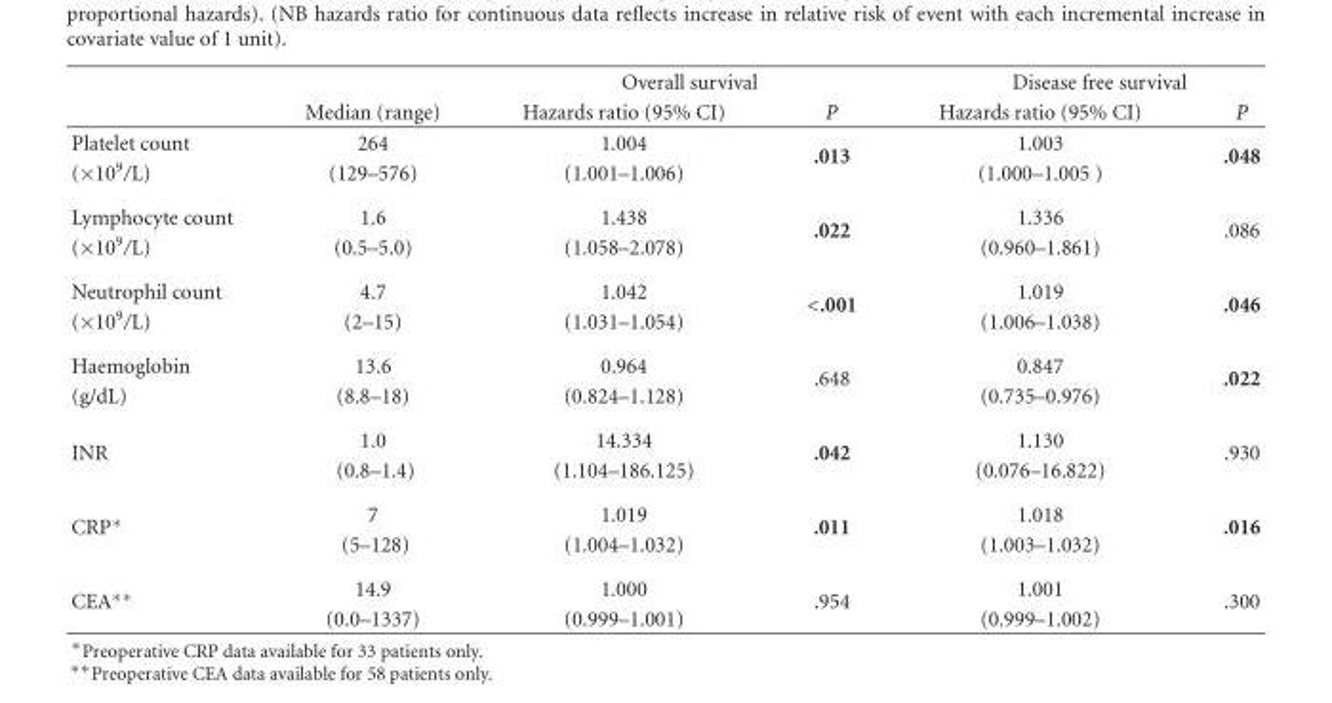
<table><thead><tr><td rowspan="2"></td><td rowspan="2">Median (range)</td><td colspan="2">Overall survival</td><td colspan="2">Disease free survival</td></tr><tr><td>Hazards ratio (95% CI)</td><td>P</td><td>Hazards ratio (95% CI)</td><td>P</td></tr></thead><tbody><tr><td>Platelet count</td><td>264</td><td>1.004</td><td rowspan="2">.013</td><td>1.003</td><td rowspan="2">.048</td></tr><tr><td>(×10<sup>9</sup>/L)</td><td>(129–576)</td><td>(1.001–1.006)</td><td>(1.000–1.005 )</td></tr><tr><td>Lymphocyte count</td><td>1.6</td><td>1.438</td><td rowspan="2">.022</td><td>1.336</td><td rowspan="2">.086</td></tr><tr><td>(×10<sup>9</sup>/L)</td><td>(0.5–5.0)</td><td>(1.058–2.078)</td><td>(0.960–1.861)</td></tr><tr><td>Neutrophil count</td><td>4.7</td><td>1.042</td><td rowspan="2">&lt;.001</td><td>1.019</td><td rowspan="2">.046</td></tr><tr><td>(×10<sup>9</sup>/L)</td><td>(2–15)</td><td>(1.031–1.054)</td><td>(1.006–1.038)</td></tr><tr><td>Haemoglobin</td><td>13.6</td><td>0.964</td><td rowspan="2">.648</td><td>0.847</td><td rowspan="2">.022</td></tr><tr><td>(g/dL)</td><td>(8.8–18)</td><td>(0.824–1.128)</td><td>(0.735–0.976)</td></tr><tr><td rowspan="2">INR</td><td>1.0</td><td>14.334</td><td rowspan="2">.042</td><td>1.130</td><td rowspan="2">.930</td></tr><tr><td>(0.8–1.4)</td><td>(1.104–186.125)</td><td>(0.076–16.822)</td></tr><tr><td rowspan="2">CRP∗</td><td>7</td><td>1.019</td><td rowspan="2">.011</td><td>1.018</td><td rowspan="2">.016</td></tr><tr><td>(5–128)</td><td>(1.004–1.032)</td><td>(1.003–1.032)</td></tr><tr><td rowspan="2">CEA∗∗</td><td>14.9</td><td>1.000</td><td rowspan="2">.954</td><td>1.001</td><td rowspan="2">.300</td></tr><tr><td>(0.0–1337)</td><td>(0.999–1.001)</td><td>(0.999–1.002)</td></tr></tbody></table>